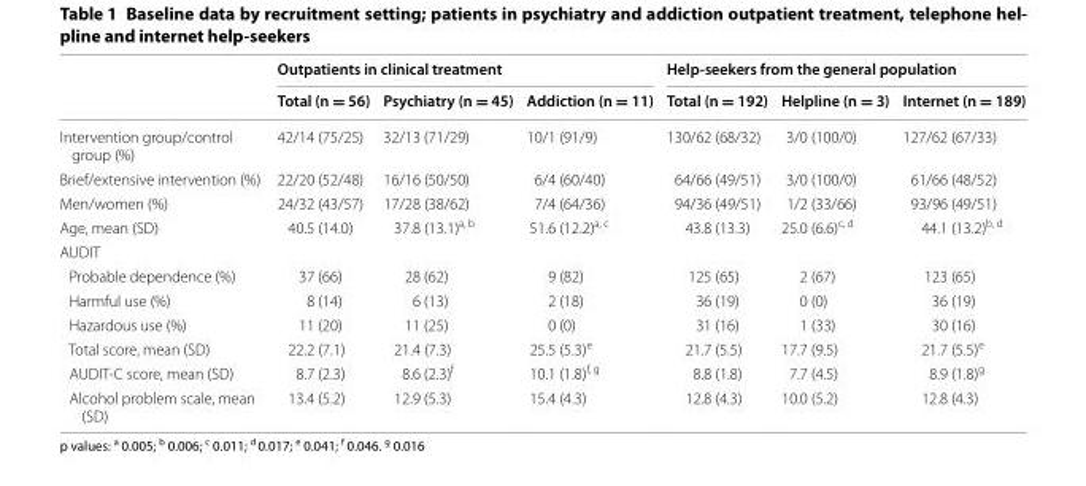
<table><thead><tr><td rowspan="2"></td><td colspan="3">Outpatients in clinical treatment</td><td colspan="3">Help-seekers from the general population</td></tr><tr><td>Total (n = 56)</td><td>Psychiatry (n = 45)</td><td>Addiction (n = 11)</td><td>Total (n = 192)</td><td>Helpline (n = 3)</td><td>Internet (n = 189)</td></tr></thead><tbody><tr><td>Intervention group/control group (%)</td><td>42/14 (75/25)</td><td>32/13 (71/29)</td><td>10/1 (91/9)</td><td>130/62 (68/32)</td><td>3/0 (100/0)</td><td>127/62 (67/33)</td></tr><tr><td>Brief/extensive intervention (%)</td><td>22/20 (52/48)</td><td>16/16 (50/50)</td><td>6/4 (60/40)</td><td>64/66 (49/51)</td><td>3/0 (100/0)</td><td>61/66 (48/52)</td></tr><tr><td>Men/women (%)</td><td>24/32 (43/57)</td><td>17/28 (38/62)</td><td>7/4 (64/36)</td><td>94/36 (49/51)</td><td>1/2 (33/66)</td><td>93/96 (49/51)</td></tr><tr><td>Age, mean (SD)</td><td>40.5 (14.0)</td><td>37.8 (13.1)<sup>a, b</sup></td><td>51.6 (12.2)<sup>a, c</sup></td><td>43.8 (13.3)</td><td>25.0 (6.6)<sup>c, d</sup></td><td>44.1 (13.2)<sup>b, d</sup></td></tr><tr><td colspan="7">AUDIT</td></tr><tr><td>Probable dependence (%)</td><td>37 (66)</td><td>28 (62)</td><td>9 (82)</td><td>125 (65)</td><td>2 (67)</td><td>123 (65)</td></tr><tr><td>Harmful use (%)</td><td>8 (14)</td><td>6 (13)</td><td>2 (18)</td><td>36 (19)</td><td>0 (0)</td><td>36 (19)</td></tr><tr><td>Hazardous use (%)</td><td>11 (20)</td><td>11 (25)</td><td>0 (0)</td><td>31 (16)</td><td>1 (33)</td><td>30 (16)</td></tr><tr><td>Total score, mean (SD)</td><td>22.2 (7.1)</td><td>21.4 (7.3)</td><td>25.5 (5.3)<sup>e</sup></td><td>21.7 (5.5)</td><td>17.7 (9.5)</td><td>21.7 (5.5)<sup>e</sup></td></tr><tr><td>AUDIT-C score, mean (SD)</td><td>8.7 (2.3)</td><td>8.6 (2.3)<sup>f</sup></td><td>10.1 (1.8)<sup>f, g</sup></td><td>8.8 (1.8)</td><td>7.7 (4.5)</td><td>8.9 (1.8)<sup>g</sup></td></tr><tr><td>Alcohol problem scale, mean (SD)</td><td>13.4 (5.2)</td><td>12.9 (5.3)</td><td>15.4 (4.3)</td><td>12.8 (4.3)</td><td>10.0 (5.2)</td><td>12.8 (4.3)</td></tr></tbody></table>